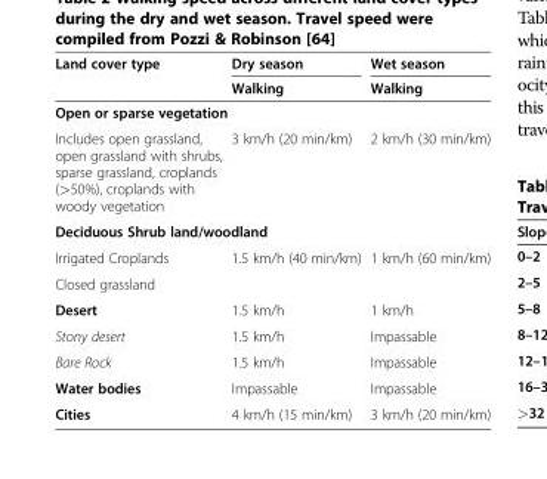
<table><thead><tr><td>Land cover type</td><td>Dry season</td><td>Wet season</td></tr></thead><tbody><tr><td></td><td>Walking</td><td>Walking</td></tr><tr><td colspan="3">Open or sparse vegetation</td></tr><tr><td>Includes open grassland, open grassland with shrubs, sparse grassland, croplands (&gt;50%), croplands with woody vegetation</td><td>3 km/h (20 min/km)</td><td>2 km/h (30 min/km)</td></tr><tr><td colspan="3">Deciduous Shrub land/woodland</td></tr><tr><td>Irrigated Croplands</td><td>1.5 km/h (40 min/km)</td><td>1 km/h (60 min/km)</td></tr><tr><td colspan="3">Closed grassland</td></tr><tr><td>Desert</td><td>1.5 km/h</td><td>1 km/h</td></tr><tr><td>Stony desert</td><td>1.5 km/h</td><td>Impassable</td></tr><tr><td>Bare Rock</td><td>1.5 km/h</td><td>Impassable</td></tr><tr><td>Water bodies</td><td>Impassable</td><td>Impassable</td></tr><tr><td>Cities</td><td>4 km/h (15 min/km)</td><td>3 km/h (20 min/km)</td></tr></tbody></table>